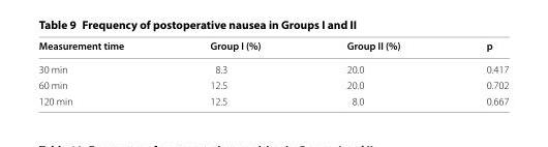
<table><thead><tr><td>Measurement time</td><td>Group I (%)</td><td>Group II (%)</td><td>p</td></tr></thead><tbody><tr><td>30 min</td><td>8.3</td><td>20.0</td><td>0.417</td></tr><tr><td>60 min</td><td>12.5</td><td>20.0</td><td>0.702</td></tr><tr><td>120 min</td><td>12.5</td><td>8.0</td><td>0.667</td></tr></tbody></table>